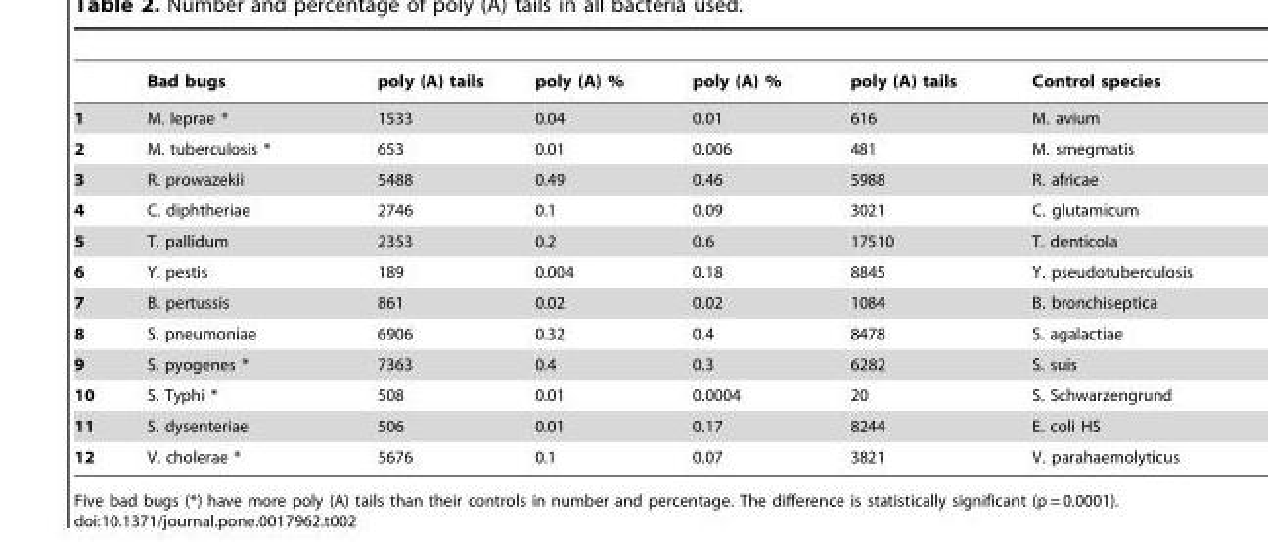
<table><thead><tr><td></td><td>Bad bugs</td><td>poly (A) tails</td><td>poly (A) %</td><td>poly (A) %</td><td>poly (A) tails</td><td>Control species</td></tr></thead><tbody><tr><td>1</td><td>M. leprae *</td><td>1533</td><td>0.04</td><td>0.01</td><td>616</td><td>M. avium</td></tr><tr><td>2</td><td>M. tuberculosis *</td><td>653</td><td>0.01</td><td>0.006</td><td>481</td><td>M. smegmatis</td></tr><tr><td>3</td><td>R. prowazekii</td><td>5488</td><td>0.49</td><td>0.46</td><td>5988</td><td>R. africae</td></tr><tr><td>4</td><td>C. diphtheriae</td><td>2746</td><td>0.1</td><td>0.09</td><td>3021</td><td>C. glutamicum</td></tr><tr><td>5</td><td>T. pallidum</td><td>2353</td><td>0.2</td><td>0.6</td><td>17510</td><td>T. denticola</td></tr><tr><td>6</td><td>Y. pestis</td><td>189</td><td>0.004</td><td>0.18</td><td>8845</td><td>Y. pseudotuberculosis</td></tr><tr><td>7</td><td>B. pertussis</td><td>861</td><td>0.02</td><td>0.02</td><td>1084</td><td>B. bronchiseptica</td></tr><tr><td>8</td><td>S. pneumoniae</td><td>6906</td><td>0.32</td><td>0.4</td><td>8478</td><td>S. agalactiae</td></tr><tr><td>9</td><td>S. pyogenes *</td><td>7363</td><td>0.4</td><td>0.3</td><td>6282</td><td>S. suis</td></tr><tr><td>10</td><td>S. Typhi *</td><td>508</td><td>0.01</td><td>0.0004</td><td>20</td><td>S. Schwarzengrund</td></tr><tr><td>11</td><td>S. dysenteriae</td><td>506</td><td>0.01</td><td>0.17</td><td>8244</td><td>E. coli HS</td></tr><tr><td>12</td><td>V. cholerae *</td><td>5676</td><td>0.1</td><td>0.07</td><td>3821</td><td>V. parahaemolyticus</td></tr></tbody></table>